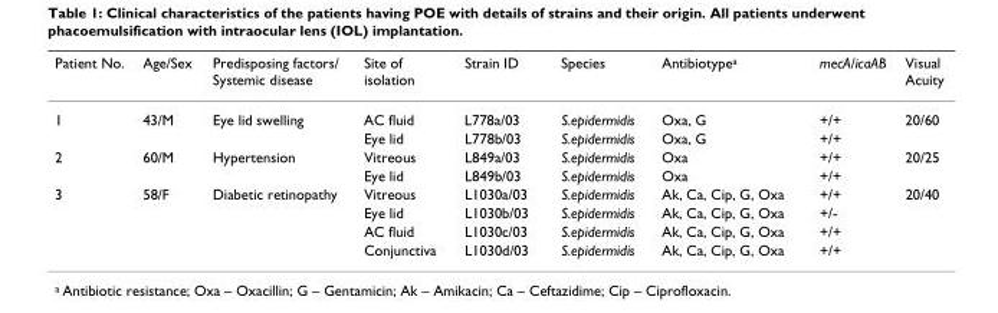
<table><thead><tr><td>Patient No.</td><td>Age/Sex</td><td>Predisposing factors/ Systemic disease</td><td>Site of isolation</td><td>Strain ID</td><td>Species</td><td>Antibiotype<sup>a</sup></td><td>mecA/icaAB</td><td>Visual Acuity</td></tr></thead><tbody><tr><td rowspan="2">1</td><td>43/M</td><td>Eye lid swelling</td><td>AC fluid</td><td>L778a/03</td><td>S.epidermidis</td><td>Oxa, G</td><td>+/+</td><td>20/60</td></tr><tr><td></td><td></td><td>Eye lid</td><td>L778b/03</td><td>S.epidermidis</td><td>Oxa, G</td><td>+/+</td><td></td></tr><tr><td rowspan="2">2</td><td>60/M</td><td>Hypertension</td><td>Vitreous</td><td>L849a/03</td><td>S.epidermidis</td><td>Oxa</td><td>+/+</td><td>20/25</td></tr><tr><td></td><td></td><td>Eye lid</td><td>L849b/03</td><td>S.epidermidis</td><td>Oxa</td><td>+/+</td><td></td></tr><tr><td rowspan="4">3</td><td>58/F</td><td>Diabetic retinopathy</td><td>Vitreous</td><td>L1030a/03</td><td>S.epidermidis</td><td>Ak, Ca, Cip, G, Oxa</td><td>+/+</td><td>20/40</td></tr><tr><td></td><td></td><td>Eye lid</td><td>L1030b/03</td><td>S.epidermidis</td><td>Ak, Ca, Cip, G, Oxa</td><td>+/-</td><td></td></tr><tr><td></td><td></td><td>AC fluid</td><td>L1030c/03</td><td>S.epidermidis</td><td>Ak, Ca, Cip, G, Oxa</td><td>+/+</td><td></td></tr><tr><td></td><td></td><td>Conjunctiva</td><td>L1030d/03</td><td>S.epidermidis</td><td>Ak, Ca, Cip, G, Oxa</td><td>+/+</td><td></td></tr></tbody></table>